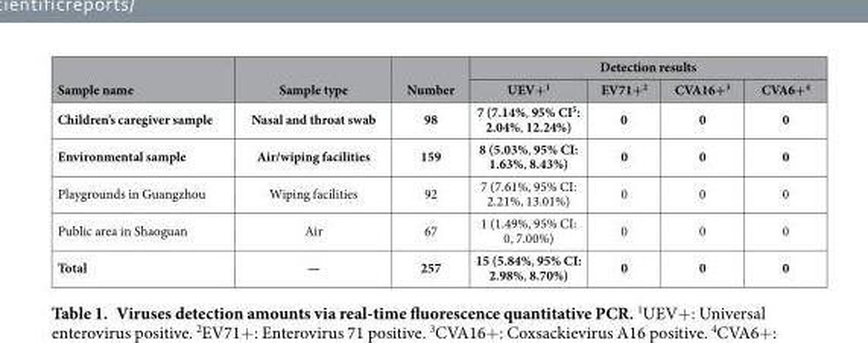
<table><thead><tr><td rowspan="2">Sample name</td><td rowspan="2">Sample type</td><td rowspan="2">Number</td><td colspan="4">Detection results</td></tr><tr><td>UEV+<sup>1</sup></td><td>EV71+<sup>2</sup></td><td>CVA16+<sup>3</sup></td><td>CVA6+<sup>4</sup></td></tr></thead><tbody><tr><td>Children’s caregiver sample</td><td>Nasal and throat swab</td><td>98</td><td>7 (7.14%, 95% CI<sup>5</sup>: 2.04%, 12.24%)</td><td>0</td><td>0</td><td>0</td></tr><tr><td>Environmental sample</td><td>Air/wiping facilities</td><td>159</td><td>8 (5.03%, 95% CI: 1.63%, 8.43%)</td><td>0</td><td>0</td><td>0</td></tr><tr><td>Playgrounds in Guangzhou</td><td>Wiping facilities</td><td>92</td><td>7 (7.61%, 95% CI: 2.21%, 13.01%)</td><td>0</td><td>0</td><td>0</td></tr><tr><td>Public area in Shaoguan</td><td>Air</td><td>67</td><td>1 (1.49%, 95% CI: 0, 7.00%)</td><td>0</td><td>0</td><td>0</td></tr><tr><td>Total</td><td>—</td><td>257</td><td>15 (5.84%, 95% CI: 2.98%, 8.70%)</td><td>0</td><td>0</td><td>0</td></tr></tbody></table>